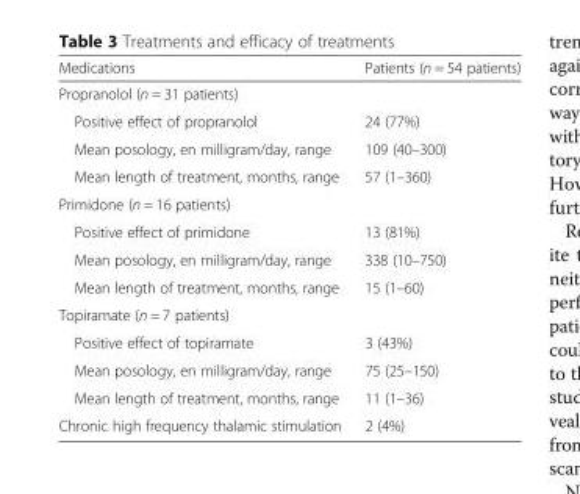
<table><thead><tr><td>Medications</td><td>Patients (n = 54 patients)</td></tr></thead><tbody><tr><td colspan="2">Propranolol (n = 31 patients)</td></tr><tr><td>Positive effect of propranolol</td><td>24 (77%)</td></tr><tr><td>Mean posology, en milligram/day, range</td><td>109 (40–300)</td></tr><tr><td>Mean length of treatment, months, range</td><td>57 (1–360)</td></tr><tr><td colspan="2">Primidone (n = 16 patients)</td></tr><tr><td>Positive effect of primidone</td><td>13 (81%)</td></tr><tr><td>Mean posology, en milligram/day, range</td><td>338 (10–750)</td></tr><tr><td>Mean length of treatment, months, range</td><td>15 (1–60)</td></tr><tr><td colspan="2">Topiramate (n = 7 patients)</td></tr><tr><td>Positive effect of topiramate</td><td>3 (43%)</td></tr><tr><td>Mean posology, en milligram/day, range</td><td>75 (25–150)</td></tr><tr><td>Mean length of treatment, months, range</td><td>11 (1–36)</td></tr><tr><td>Chronic high frequency thalamic stimulation</td><td>2 (4%)</td></tr></tbody></table>